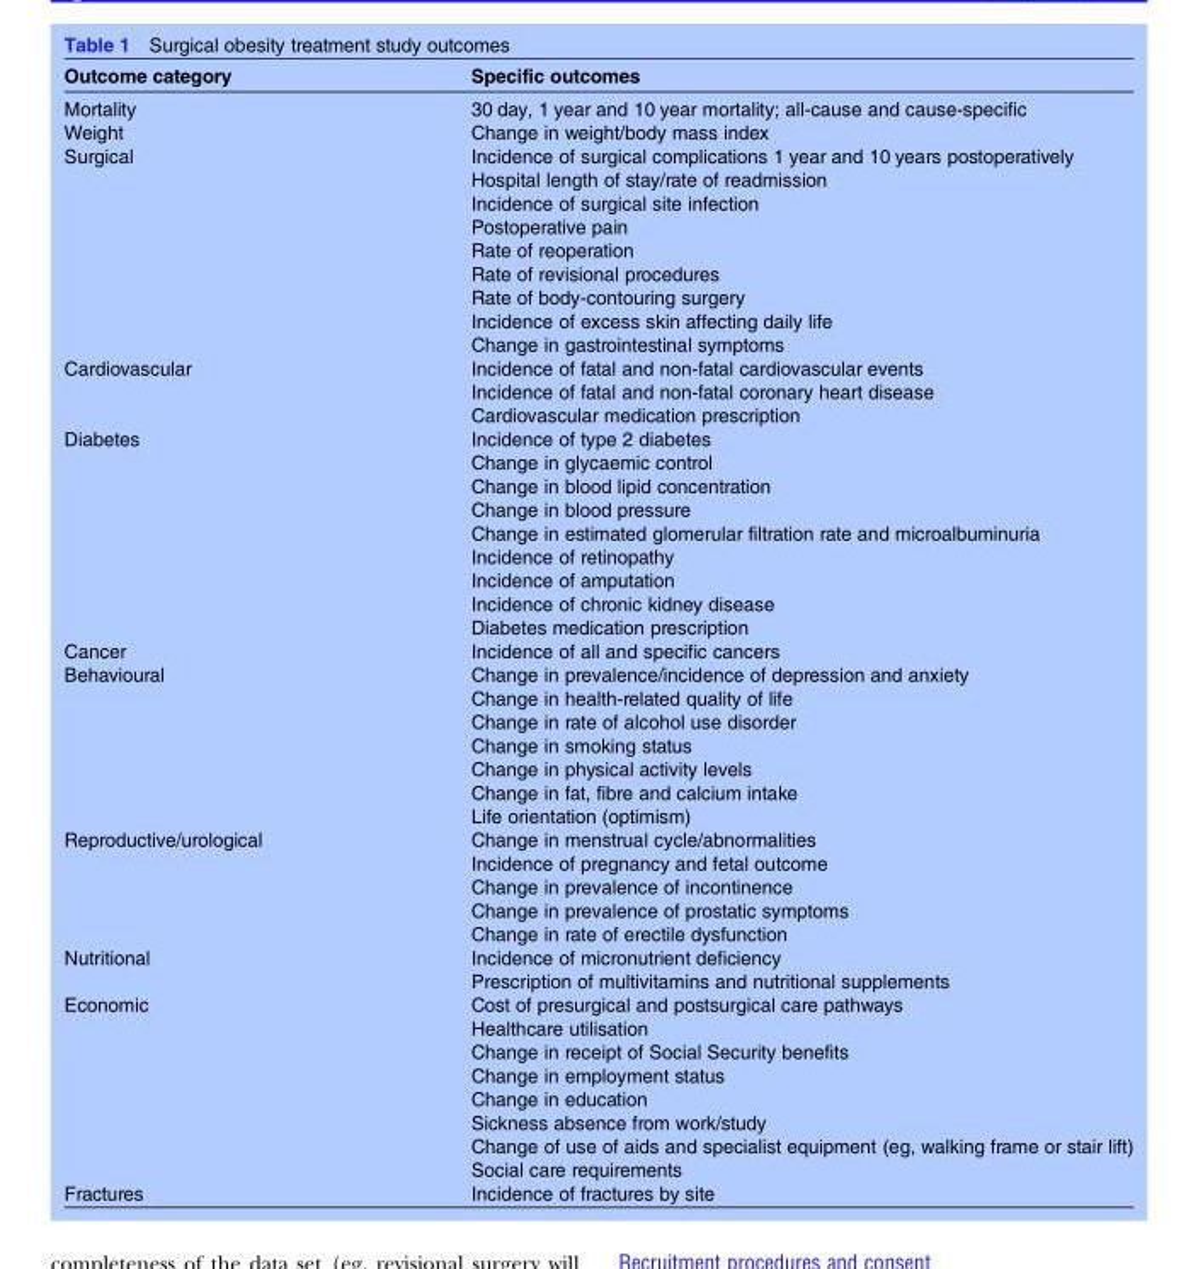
<table><thead><tr><td>Outcome category</td><td>Specific outcomes</td></tr></thead><tbody><tr><td>Mortality</td><td>30 day, 1 year and 10 year mortality; all-cause and cause-specific</td></tr><tr><td>Weight</td><td>Change in weight/body mass index</td></tr><tr><td rowspan="9">Surgical</td><td>Incidence of surgical complications 1 year and 10 years postoperatively</td></tr><tr><td>Hospital length of stay/rate of readmission</td></tr><tr><td>Incidence of surgical site infection</td></tr><tr><td>Postoperative pain</td></tr><tr><td>Rate of reoperation</td></tr><tr><td>Rate of revisional procedures</td></tr><tr><td>Rate of body-contouring surgery</td></tr><tr><td>Incidence of excess skin affecting daily life</td></tr><tr><td>Change in gastrointestinal symptoms</td></tr><tr><td rowspan="3">Cardiovascular</td><td>Incidence of fatal and non-fatal cardiovascular events</td></tr><tr><td>Incidence of fatal and non-fatal coronary heart disease</td></tr><tr><td>Cardiovascular medication prescription</td></tr><tr><td rowspan="9">Diabetes</td><td>Incidence of type 2 diabetes</td></tr><tr><td>Change in glycaemic control</td></tr><tr><td>Change in blood lipid concentration</td></tr><tr><td>Change in blood pressure</td></tr><tr><td>Change in estimated glomerular filtration rate and microalbuminuria</td></tr><tr><td>Incidence of retinopathy</td></tr><tr><td>Incidence of amputation</td></tr><tr><td>Incidence of chronic kidney disease</td></tr><tr><td>Diabetes medication prescription</td></tr><tr><td>Cancer</td><td>Incidence of all and specific cancers</td></tr><tr><td rowspan="7">Behavioural</td><td>Change in prevalence/incidence of depression and anxiety</td></tr><tr><td>Change in health-related quality of life</td></tr><tr><td>Change in rate of alcohol use disorder</td></tr><tr><td>Change in smoking status</td></tr><tr><td>Change in physical activity levels</td></tr><tr><td>Change in fat, fibre and calcium intake</td></tr><tr><td>Life orientation (optimism)</td></tr><tr><td rowspan="5">Reproductive/urological</td><td>Change in menstrual cycle/abnormalities</td></tr><tr><td>Incidence of pregnancy and fetal outcome</td></tr><tr><td>Change in prevalence of incontinence</td></tr><tr><td>Change in prevalence of prostatic symptoms</td></tr><tr><td>Change in rate of erectile dysfunction</td></tr><tr><td rowspan="2">Nutritional</td><td>Incidence of micronutrient deficiency</td></tr><tr><td>Prescription of multivitamins and nutritional supplements</td></tr><tr><td rowspan="8">Economic</td><td>Cost of presurgical and postsurgical care pathways</td></tr><tr><td>Healthcare utilisation</td></tr><tr><td>Change in receipt of Social Security benefits</td></tr><tr><td>Change in employment status</td></tr><tr><td>Change in education</td></tr><tr><td>Sickness absence from work/study</td></tr><tr><td>Change of use of aids and specialist equipment (eg, walking frame or stair lift)</td></tr><tr><td>Social care requirements</td></tr><tr><td>Fractures</td><td>Incidence of fractures by site</td></tr></tbody></table>